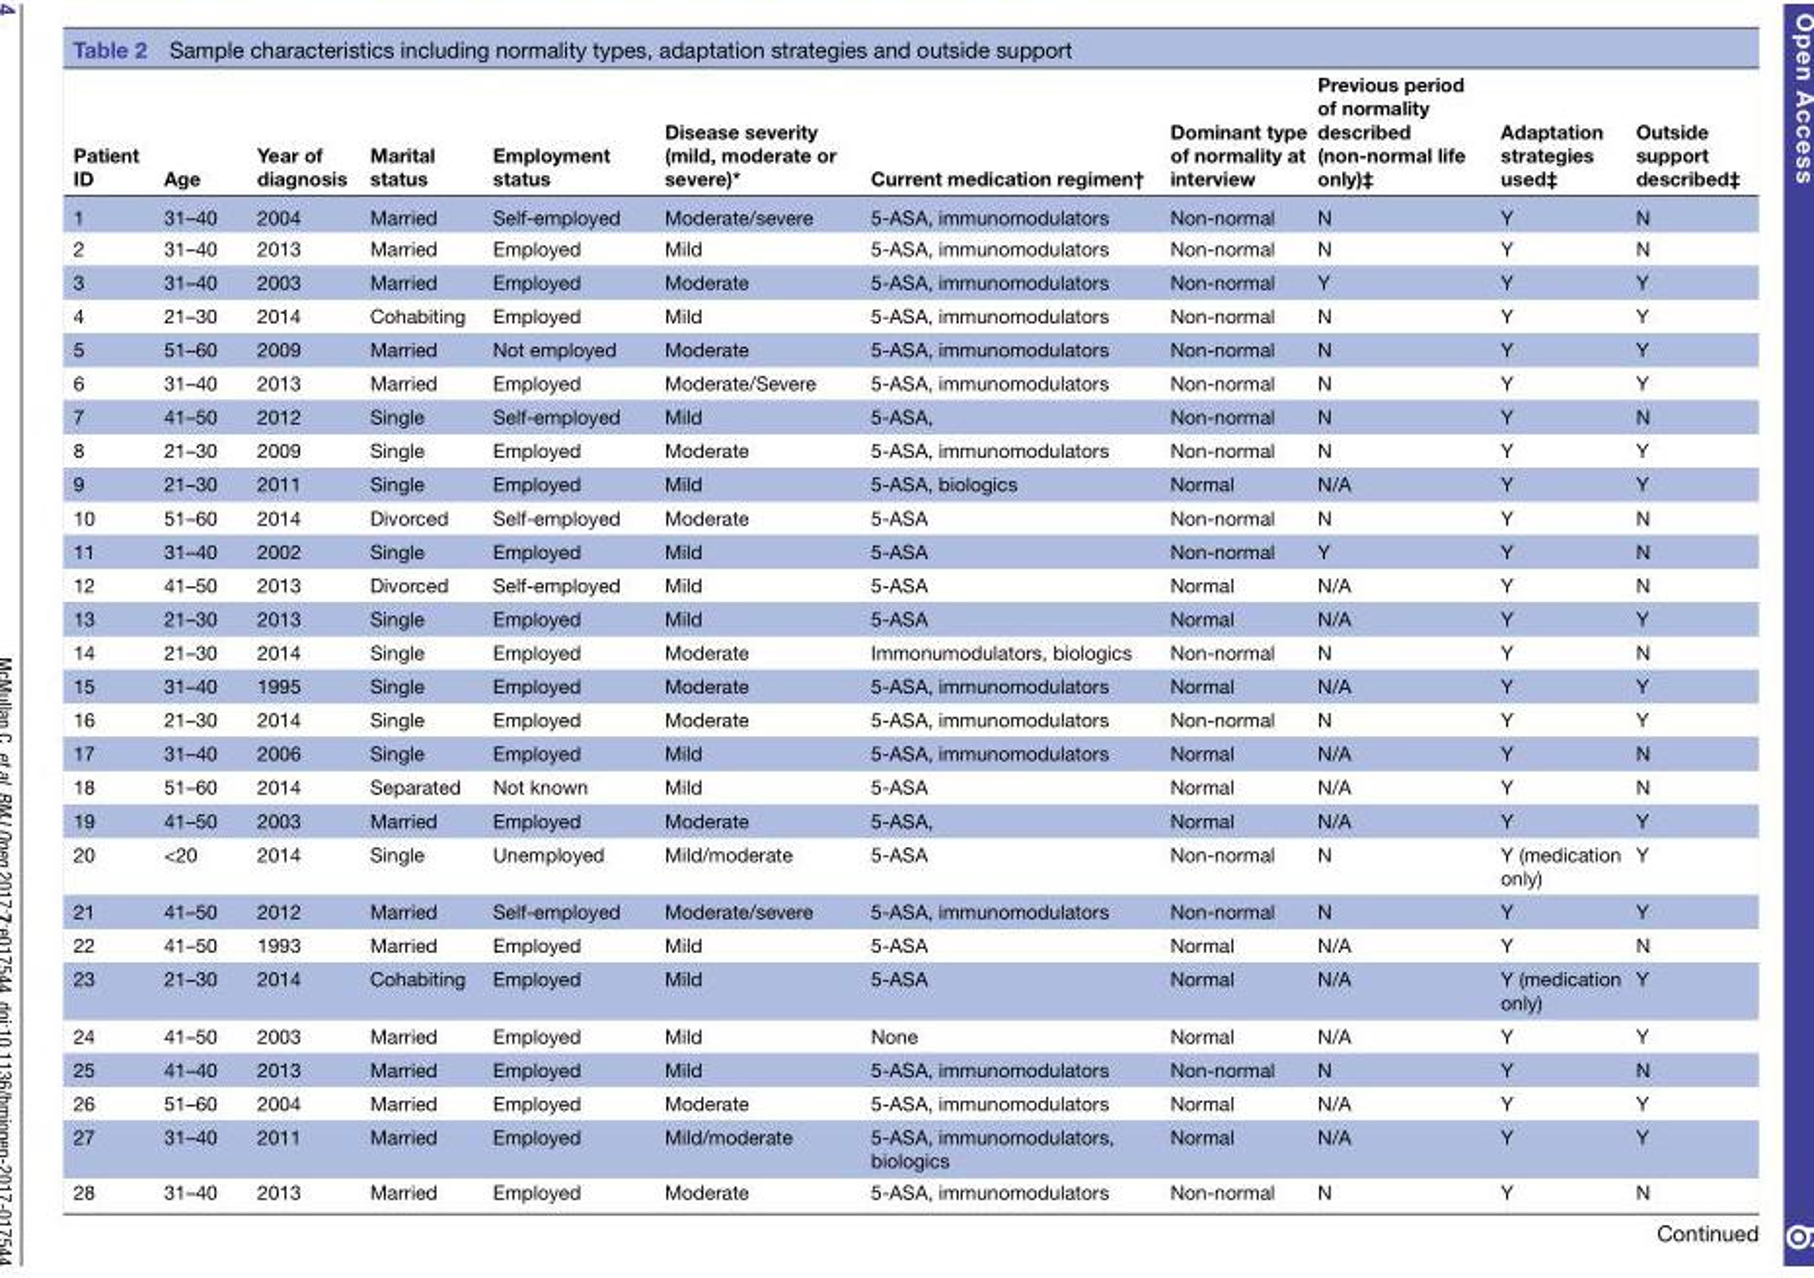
<table><thead><tr><td>Patient ID</td><td>Age</td><td>Year of diagnosis</td><td>Marital status</td><td>Employment status</td><td>Disease severity (mild, moderate or severe)*</td><td>Current medication regimen†</td><td>Dominant type of normality at interview</td><td>Previous period of normality described (non-normal life only)‡</td><td>Adaptation strategies used‡</td><td>Outside support described‡</td></tr></thead><tbody><tr><td>1</td><td>31–40</td><td>2004</td><td>Married</td><td>Self-employed</td><td>Moderate/severe</td><td>5-ASA, immunomodulators</td><td>Non-normal</td><td>N</td><td>Y</td><td>N</td></tr><tr><td>2</td><td>31–40</td><td>2013</td><td>Married</td><td>Employed</td><td>Mild</td><td>5-ASA, immunomodulators</td><td>Non-normal</td><td>N</td><td>Y</td><td>N</td></tr><tr><td>3</td><td>31–40</td><td>2003</td><td>Married</td><td>Employed</td><td>Moderate</td><td>5-ASA, immunomodulators</td><td>Non-normal</td><td>Y</td><td>Y</td><td>Y</td></tr><tr><td>4</td><td>21–30</td><td>2014</td><td>Cohabiting</td><td>Employed</td><td>Mild</td><td>5-ASA, immunomodulators</td><td>Non-normal</td><td>N</td><td>Y</td><td>Y</td></tr><tr><td>5</td><td>51–60</td><td>2009</td><td>Married</td><td>Not employed</td><td>Moderate</td><td>5-ASA, immunomodulators</td><td>Non-normal</td><td>N</td><td>Y</td><td>Y</td></tr><tr><td>6</td><td>31–40</td><td>2013</td><td>Married</td><td>Employed</td><td>Moderate/Severe</td><td>5-ASA, immunomodulators</td><td>Non-normal</td><td>N</td><td>Y</td><td>Y</td></tr><tr><td>7</td><td>41–50</td><td>2012</td><td>Single</td><td>Self-employed</td><td>Mild</td><td>5-ASA,</td><td>Non-normal</td><td>N</td><td>Y</td><td>N</td></tr><tr><td>8</td><td>21–30</td><td>2009</td><td>Single</td><td>Employed</td><td>Moderate</td><td>5-ASA, immunomodulators</td><td>Non-normal</td><td>N</td><td>Y</td><td>Y</td></tr><tr><td>9</td><td>21–30</td><td>2011</td><td>Single</td><td>Employed</td><td>Mild</td><td>5-ASA, biologics</td><td>Normal</td><td>N/A</td><td>Y</td><td>Y</td></tr><tr><td>10</td><td>51–60</td><td>2014</td><td>Divorced</td><td>Self-employed</td><td>Moderate</td><td>5-ASA</td><td>Non-normal</td><td>N</td><td>Y</td><td>N</td></tr><tr><td>11</td><td>31–40</td><td>2002</td><td>Single</td><td>Employed</td><td>Mild</td><td>5-ASA</td><td>Non-normal</td><td>Y</td><td>Y</td><td>N</td></tr><tr><td>12</td><td>41–50</td><td>2013</td><td>Divorced</td><td>Self-employed</td><td>Mild</td><td>5-ASA</td><td>Normal</td><td>N/A</td><td>Y</td><td>N</td></tr><tr><td>13</td><td>21–30</td><td>2013</td><td>Single</td><td>Employed</td><td>Mild</td><td>5-ASA</td><td>Normal</td><td>N/A</td><td>Y</td><td>Y</td></tr><tr><td>14</td><td>21–30</td><td>2014</td><td>Single</td><td>Employed</td><td>Moderate</td><td>Immonumodulators, biologics</td><td>Non-normal</td><td>N</td><td>Y</td><td>N</td></tr><tr><td>15</td><td>31–40</td><td>1995</td><td>Single</td><td>Employed</td><td>Moderate</td><td>5-ASA, immunomodulators</td><td>Normal</td><td>N/A</td><td>Y</td><td>Y</td></tr><tr><td>16</td><td>21–30</td><td>2014</td><td>Single</td><td>Employed</td><td>Moderate</td><td>5-ASA, immunomodulators</td><td>Non-normal</td><td>N</td><td>Y</td><td>Y</td></tr><tr><td>17</td><td>31–40</td><td>2006</td><td>Single</td><td>Employed</td><td>Mild</td><td>5-ASA, immunomodulators</td><td>Normal</td><td>N/A</td><td>Y</td><td>N</td></tr><tr><td>18</td><td>51–60</td><td>2014</td><td>Separated</td><td>Not known</td><td>Mild</td><td>5-ASA</td><td>Normal</td><td>N/A</td><td>Y</td><td>N</td></tr><tr><td>19</td><td>41–50</td><td>2003</td><td>Married</td><td>Employed</td><td>Moderate</td><td>5-ASA,</td><td>Normal</td><td>N/A</td><td>Y</td><td>Y</td></tr><tr><td>20</td><td>&lt;20</td><td>2014</td><td>Single</td><td>Unemployed</td><td>Mild/moderate</td><td>5-ASA</td><td>Non-normal</td><td>N</td><td>Y (medication only)</td><td>Y</td></tr><tr><td>21</td><td>41–50</td><td>2012</td><td>Married</td><td>Self-employed</td><td>Moderate/severe</td><td>5-ASA, immunomodulators</td><td>Non-normal</td><td>N</td><td>Y</td><td>Y</td></tr><tr><td>22</td><td>41–50</td><td>1993</td><td>Married</td><td>Employed</td><td>Mild</td><td>5-ASA</td><td>Normal</td><td>N/A</td><td>Y</td><td>N</td></tr><tr><td>23</td><td>21–30</td><td>2014</td><td>Cohabiting</td><td>Employed</td><td>Mild</td><td>5-ASA</td><td>Normal</td><td>N/A</td><td>Y (medication only)</td><td>Y</td></tr><tr><td>24</td><td>41–50</td><td>2003</td><td>Married</td><td>Employed</td><td>Mild</td><td>None</td><td>Normal</td><td>N/A</td><td>Y</td><td>Y</td></tr><tr><td>25</td><td>41–40</td><td>2013</td><td>Married</td><td>Employed</td><td>Mild</td><td>5-ASA, immunomodulators</td><td>Non-normal</td><td>N</td><td>Y</td><td>N</td></tr><tr><td>26</td><td>51–60</td><td>2004</td><td>Married</td><td>Employed</td><td>Moderate</td><td>5-ASA, immunomodulators</td><td>Normal</td><td>N/A</td><td>Y</td><td>Y</td></tr><tr><td>27</td><td>31–40</td><td>2011</td><td>Married</td><td>Employed</td><td>Mild/moderate</td><td>5-ASA, immunomodulators, biologics</td><td>Normal</td><td>N/A</td><td>Y</td><td>Y</td></tr><tr><td>28</td><td>31–40</td><td>2013</td><td>Married</td><td>Employed</td><td>Moderate</td><td>5-ASA, immunomodulators</td><td>Non-normal</td><td>N</td><td>Y</td><td>N</td></tr></tbody></table>